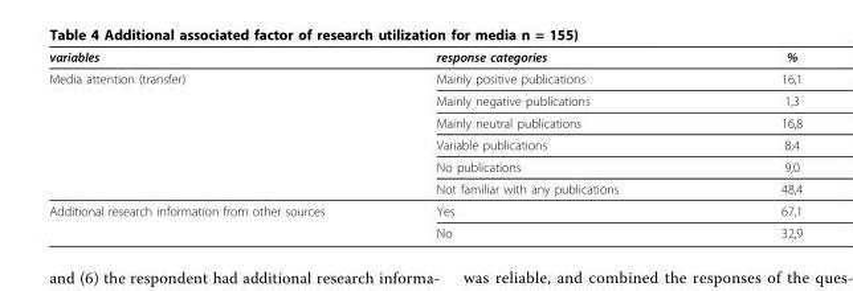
<table><thead><tr><td>variables</td><td>response categories</td><td>%</td></tr></thead><tbody><tr><td rowspan="6">Media attention (transfer)</td><td>Mainly positive publications</td><td>16,1</td></tr><tr><td>Mainly negative publications</td><td>1,3</td></tr><tr><td>Mainly neutral publications</td><td>16,8</td></tr><tr><td>Variable publications</td><td>8,4</td></tr><tr><td>No publications</td><td>9,0</td></tr><tr><td>Not familiar with any publications</td><td>48,4</td></tr><tr><td rowspan="2">Additional research information from other sources</td><td>Yes</td><td>67,1</td></tr><tr><td>No</td><td>32,9</td></tr></tbody></table>